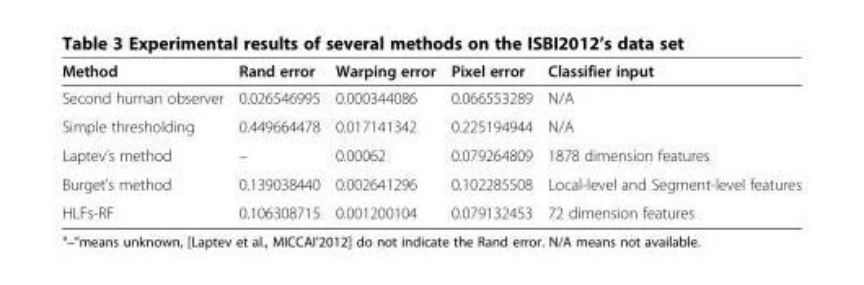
<table><thead><tr><td>Method</td><td>Rand error</td><td>Warping error</td><td>Pixel error</td><td>Classifier input</td></tr></thead><tbody><tr><td>Second human observer</td><td>0.026546995</td><td>0.000344086</td><td>0.066553289</td><td>N/A</td></tr><tr><td>Simple thresholding</td><td>0.449664478</td><td>0.017141342</td><td>0.225194944</td><td>N/A</td></tr><tr><td>Laptev’s method</td><td>–</td><td>0.00062</td><td>0.079264809</td><td>1878 dimension features</td></tr><tr><td>Burget’s method</td><td>0.139038440</td><td>0.002641296</td><td>0.102285508</td><td>Local-level and Segment-level features</td></tr><tr><td>HLFs-RF</td><td>0.106308715</td><td>0.001200104</td><td>0.079132453</td><td>72 dimension features</td></tr></tbody></table>